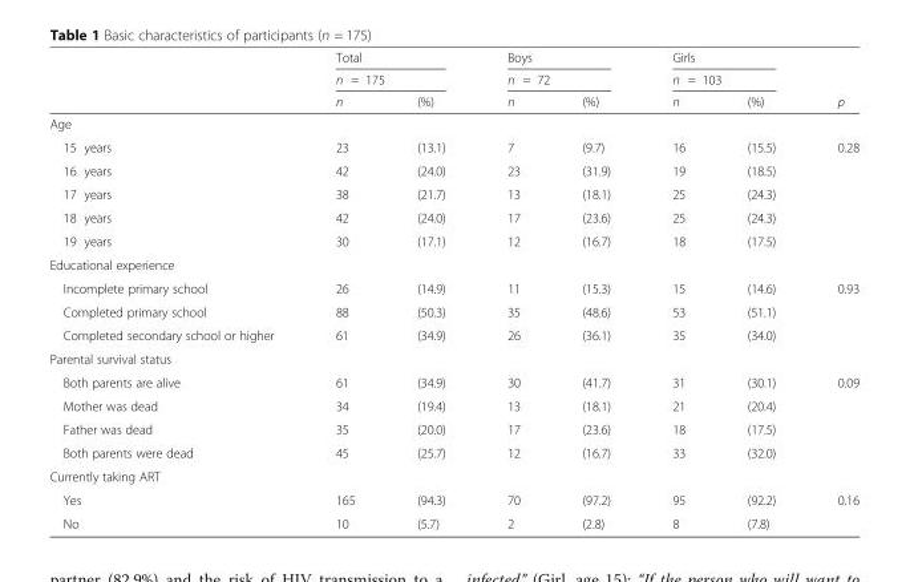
<table><thead><tr><td rowspan="3"></td><td rowspan="2" colspan="2">Total n = 175</td><td rowspan="2" colspan="2">Boys n = 72</td><td rowspan="2" colspan="2">Girls n = 103</td><td rowspan="3">p</td></tr><tr></tr><tr><td>n</td><td>(%)</td><td>n</td><td>(%)</td><td>n</td><td>(%)</td></tr></thead><tbody><tr><td colspan="8">Age</td></tr><tr><td>15 years</td><td>23</td><td>(13.1)</td><td>7</td><td>(9.7)</td><td>16</td><td>(15.5)</td><td>0.28</td></tr><tr><td>16 years</td><td>42</td><td>(24.0)</td><td>23</td><td>(31.9)</td><td>19</td><td>(18.5)</td><td></td></tr><tr><td>17 years</td><td>38</td><td>(21.7)</td><td>13</td><td>(18.1)</td><td>25</td><td>(24.3)</td><td></td></tr><tr><td>18 years</td><td>42</td><td>(24.0)</td><td>17</td><td>(23.6)</td><td>25</td><td>(24.3)</td><td></td></tr><tr><td>19 years</td><td>30</td><td>(17.1)</td><td>12</td><td>(16.7)</td><td>18</td><td>(17.5)</td><td></td></tr><tr><td colspan="8">Educational experience</td></tr><tr><td>Incomplete primary school</td><td>26</td><td>(14.9)</td><td>11</td><td>(15.3)</td><td>15</td><td>(14.6)</td><td>0.93</td></tr><tr><td>Completed primary school</td><td>88</td><td>(50.3)</td><td>35</td><td>(48.6)</td><td>53</td><td>(51.1)</td><td></td></tr><tr><td>Completed secondary school or higher</td><td>61</td><td>(34.9)</td><td>26</td><td>(36.1)</td><td>35</td><td>(34.0)</td><td></td></tr><tr><td colspan="8">Parental survival status</td></tr><tr><td>Both parents are alive</td><td>61</td><td>(34.9)</td><td>30</td><td>(41.7)</td><td>31</td><td>(30.1)</td><td>0.09</td></tr><tr><td>Mother was dead</td><td>34</td><td>(19.4)</td><td>13</td><td>(18.1)</td><td>21</td><td>(20.4)</td><td></td></tr><tr><td>Father was dead</td><td>35</td><td>(20.0)</td><td>17</td><td>(23.6)</td><td>18</td><td>(17.5)</td><td></td></tr><tr><td>Both parents were dead</td><td>45</td><td>(25.7)</td><td>12</td><td>(16.7)</td><td>33</td><td>(32.0)</td><td></td></tr><tr><td colspan="8">Currently taking ART</td></tr><tr><td>Yes</td><td>165</td><td>(94.3)</td><td>70</td><td>(97.2)</td><td>95</td><td>(92.2)</td><td>0.16</td></tr><tr><td>No</td><td>10</td><td>(5.7)</td><td>2</td><td>(2.8)</td><td>8</td><td>(7.8)</td><td></td></tr></tbody></table>